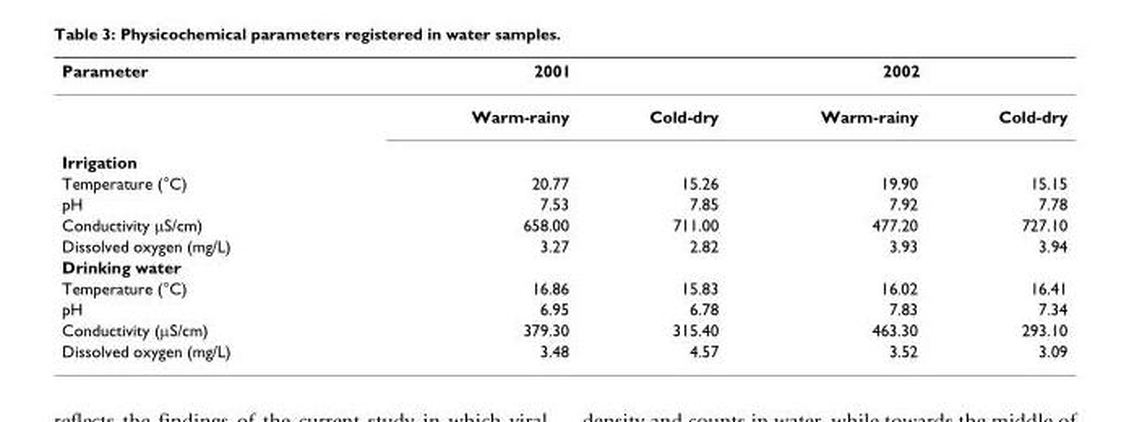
<table><thead><tr><td rowspan="2">Parameter</td><td colspan="2">2001</td><td colspan="2">2002</td></tr><tr><td>Warm-rainy</td><td>Cold-dry</td><td>Warm-rainy</td><td>Cold-dry</td></tr></thead><tbody><tr><td colspan="5">Irrigation</td></tr><tr><td>Temperature (°C)</td><td>20.77</td><td>15.26</td><td>19.90</td><td>15.15</td></tr><tr><td>pH</td><td>7.53</td><td>7.85</td><td>7.92</td><td>7.78</td></tr><tr><td>Conductivity μS/cm)</td><td>658.00</td><td>711.00</td><td>477.20</td><td>727.10</td></tr><tr><td>Dissolved oxygen (mg/L)</td><td>3.27</td><td>2.82</td><td>3.93</td><td>3.94</td></tr><tr><td colspan="5">Drinking water</td></tr><tr><td>Temperature (°C)</td><td>16.86</td><td>15.83</td><td>16.02</td><td>16.41</td></tr><tr><td>pH</td><td>6.95</td><td>6.78</td><td>7.83</td><td>7.34</td></tr><tr><td>Conductivity (μS/cm)</td><td>379.30</td><td>315.40</td><td>463.30</td><td>293.10</td></tr><tr><td>Dissolved oxygen (mg/L)</td><td>3.48</td><td>4.57</td><td>3.52</td><td>3.09</td></tr></tbody></table>